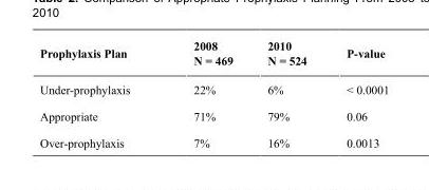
<table><thead><tr><td rowspan="2">Prophylaxis Plan</td><td rowspan="2">2008 N = 469</td><td rowspan="2">2010 N = 524</td><td rowspan="2">P-value</td></tr><tr></tr></thead><tbody><tr><td>Under-prophylaxis</td><td>22%</td><td>6%</td><td>&lt; 0.0001</td></tr><tr><td>Appropriate</td><td>71%</td><td>79%</td><td>0.06</td></tr><tr><td>Over-prophylaxis</td><td>7%</td><td>16%</td><td>0.0013</td></tr></tbody></table>